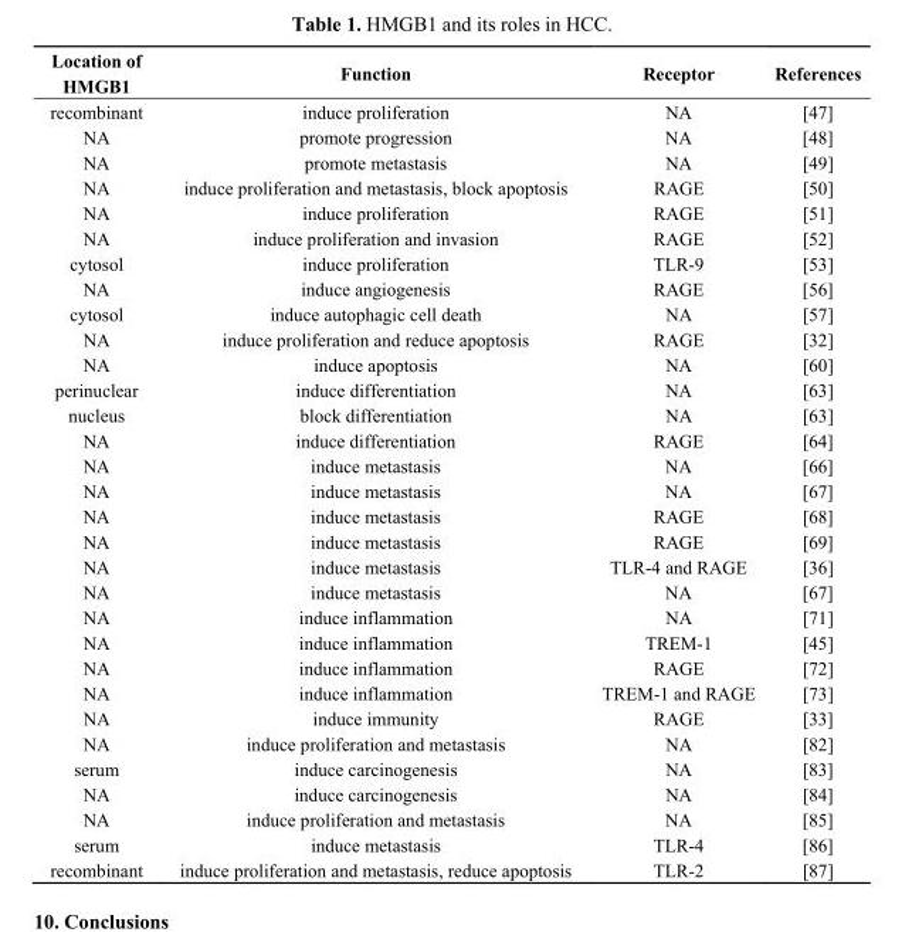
<table><thead><tr><td>Location of HMGB1</td><td>Function</td><td>Receptor</td><td>References</td></tr></thead><tbody><tr><td>recombinant</td><td>induce proliferation</td><td>NA</td><td>[47]</td></tr><tr><td>NA</td><td>promote progression</td><td>NA</td><td>[48]</td></tr><tr><td>NA</td><td>promote metastasis</td><td>NA</td><td>[49]</td></tr><tr><td>NA</td><td>induce proliferation and metastasis, block apoptosis</td><td>RAGE</td><td>[50]</td></tr><tr><td>NA</td><td>induce proliferation</td><td>RAGE</td><td>[51]</td></tr><tr><td>NA</td><td>induce proliferation and invasion</td><td>RAGE</td><td>[52]</td></tr><tr><td>cytosol</td><td>induce proliferation</td><td>TLR-9</td><td>[53]</td></tr><tr><td>NA</td><td>induce angiogenesis</td><td>RAGE</td><td>[56]</td></tr><tr><td>cytosol</td><td>induce autophagic cell death</td><td>NA</td><td>[57]</td></tr><tr><td>NA</td><td>induce proliferation and reduce apoptosis</td><td>RAGE</td><td>[32]</td></tr><tr><td>NA</td><td>induce apoptosis</td><td>NA</td><td>[60]</td></tr><tr><td>perinuclear</td><td>induce differentiation</td><td>NA</td><td>[63]</td></tr><tr><td>nucleus</td><td>block differentiation</td><td>NA</td><td>[63]</td></tr><tr><td>NA</td><td>induce differentiation</td><td>RAGE</td><td>[64]</td></tr><tr><td>NA</td><td>induce metastasis</td><td>NA</td><td>[66]</td></tr><tr><td>NA</td><td>induce metastasis</td><td>NA</td><td>[67]</td></tr><tr><td>NA</td><td>induce metastasis</td><td>RAGE</td><td>[68]</td></tr><tr><td>NA</td><td>induce metastasis</td><td>RAGE</td><td>[69]</td></tr><tr><td>NA</td><td>induce metastasis</td><td>TLR-4 and RAGE</td><td>[36]</td></tr><tr><td>NA</td><td>induce metastasis</td><td>NA</td><td>[67]</td></tr><tr><td>NA</td><td>induce inflammation</td><td>NA</td><td>[71]</td></tr><tr><td>NA</td><td>induce inflammation</td><td>TREM-1</td><td>[45]</td></tr><tr><td>NA</td><td>induce inflammation</td><td>RAGE</td><td>[72]</td></tr><tr><td>NA</td><td>induce inflammation</td><td>TREM-1 and RAGE</td><td>[73]</td></tr><tr><td>NA</td><td>induce immunity</td><td>RAGE</td><td>[33]</td></tr><tr><td>NA</td><td>induce proliferation and metastasis</td><td>NA</td><td>[82]</td></tr><tr><td>serum</td><td>induce carcinogenesis</td><td>NA</td><td>[83]</td></tr><tr><td>NA</td><td>induce carcinogenesis</td><td>NA</td><td>[84]</td></tr><tr><td>NA</td><td>induce proliferation and metastasis</td><td>NA</td><td>[85]</td></tr><tr><td>serum</td><td>induce metastasis</td><td>TLR-4</td><td>[86]</td></tr><tr><td>recombinant</td><td>induce proliferation and metastasis, reduce apoptosis</td><td>TLR-2</td><td>[87]</td></tr></tbody></table>